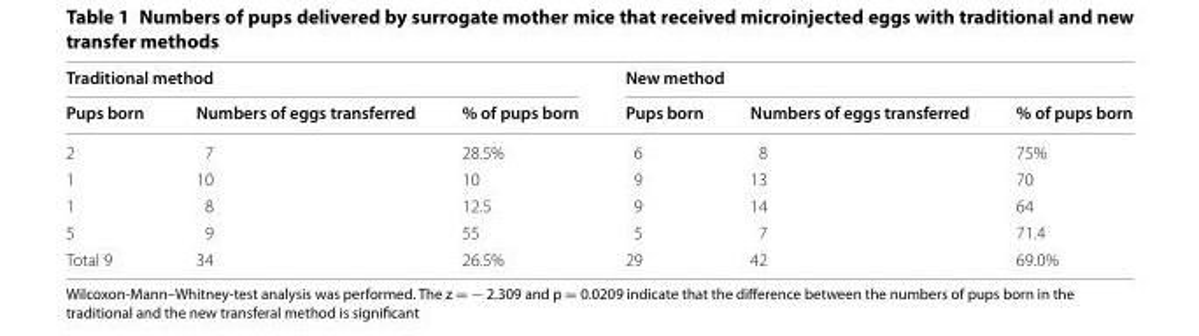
<table><thead><tr><td colspan="3">Traditional method</td><td colspan="3">New method</td></tr><tr><td>Pups born</td><td>Numbers of eggs transferred</td><td>% of pups born</td><td>Pups born</td><td>Numbers of eggs transferred</td><td>% of pups born</td></tr></thead><tbody><tr><td>2</td><td>7</td><td>28.5%</td><td>6</td><td>8</td><td>75%</td></tr><tr><td>1</td><td>10</td><td>10</td><td>9</td><td>13</td><td>70</td></tr><tr><td>1</td><td>8</td><td>12.5</td><td>9</td><td>14</td><td>64</td></tr><tr><td>5</td><td>9</td><td>55</td><td>5</td><td>7</td><td>71.4</td></tr><tr><td>Total 9</td><td>34</td><td>26.5%</td><td>29</td><td>42</td><td>69.0%</td></tr></tbody></table>